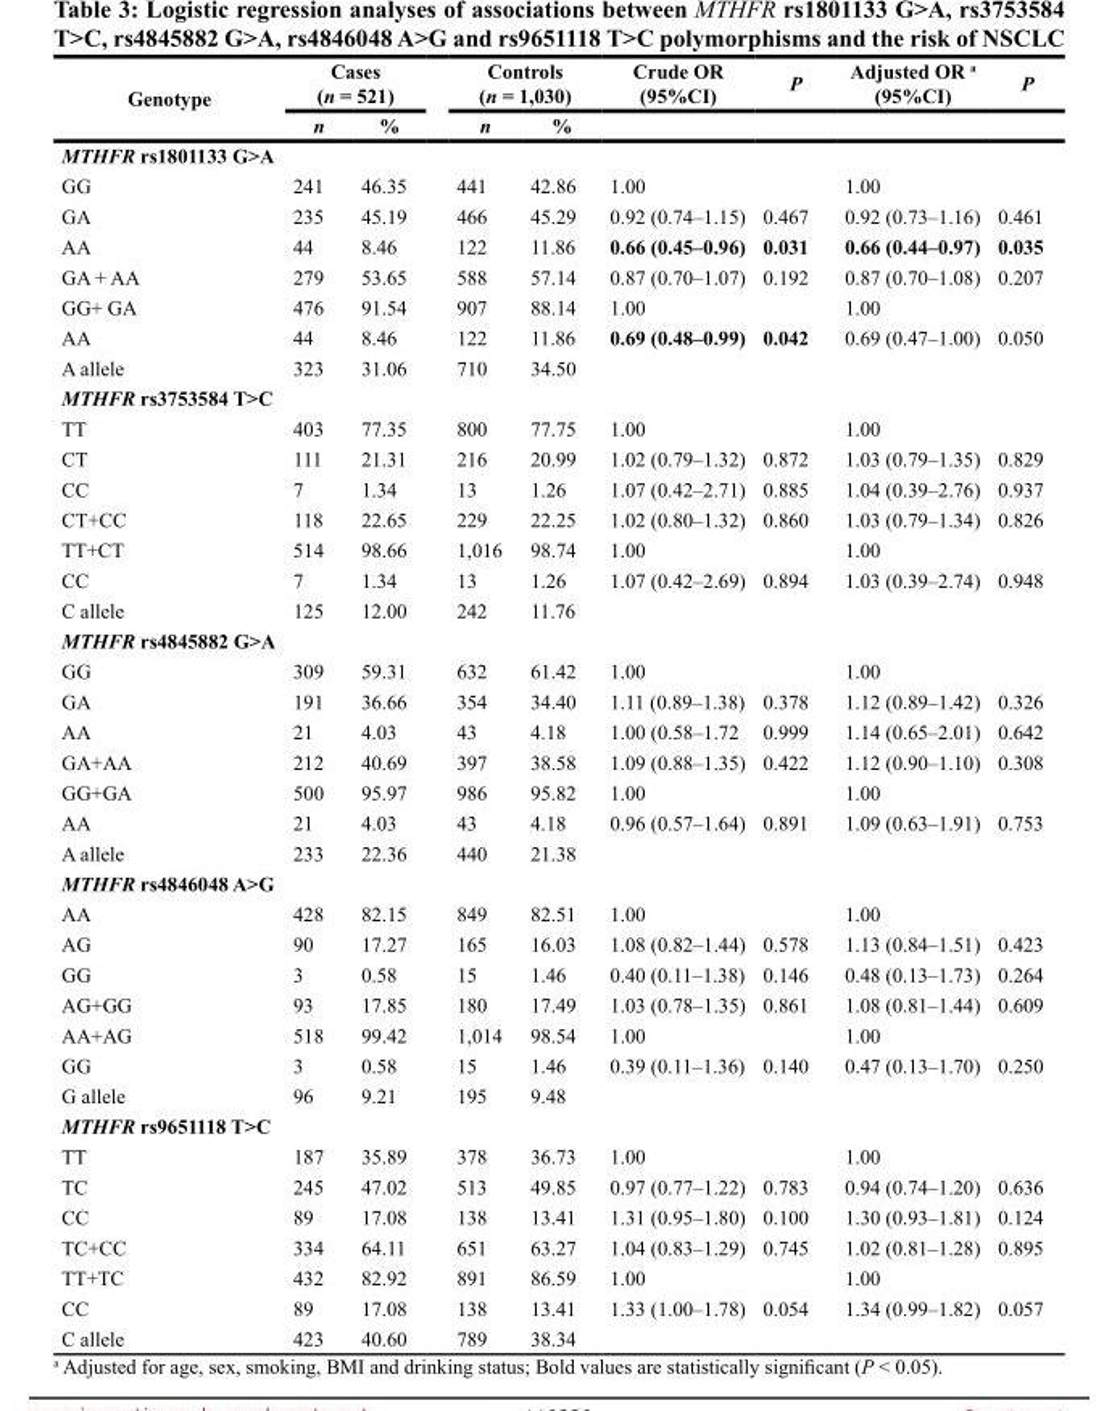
<table><thead><tr><td rowspan="2">Genotype</td><td colspan="2">Cases (n = 521)</td><td colspan="2">Controls (n = 1,030)</td><td rowspan="2">Crude OR (95%CI)</td><td rowspan="2">P</td><td rowspan="2">Adjusted OR <sup>a</sup> (95%CI)</td><td rowspan="2">P</td></tr><tr><td>n</td><td>%</td><td>n</td><td>%</td></tr></thead><tbody><tr><td colspan="9">MTHFR rs1801133 G&gt;A</td></tr><tr><td>GG</td><td>241</td><td>46.35</td><td>441</td><td>42.86</td><td>1.00</td><td></td><td>1.00</td><td></td></tr><tr><td>GA</td><td>235</td><td>45.19</td><td>466</td><td>45.29</td><td>0.92 (0.74–1.15)</td><td>0.467</td><td>0.92 (0.73–1.16)</td><td>0.461</td></tr><tr><td>AA</td><td>44</td><td>8.46</td><td>122</td><td>11.86</td><td>0.66 (0.45–0.96)</td><td>0.031</td><td>0.66 (0.44–0.97)</td><td>0.035</td></tr><tr><td>GA + AA</td><td>279</td><td>53.65</td><td>588</td><td>57.14</td><td>0.87 (0.70–1.07)</td><td>0.192</td><td>0.87 (0.70–1.08)</td><td>0.207</td></tr><tr><td>GG+ GA</td><td>476</td><td>91.54</td><td>907</td><td>88.14</td><td>1.00</td><td></td><td>1.00</td><td></td></tr><tr><td>AA</td><td>44</td><td>8.46</td><td>122</td><td>11.86</td><td>0.69 (0.48–0.99)</td><td>0.042</td><td>0.69 (0.47–1.00)</td><td>0.050</td></tr><tr><td>A allele</td><td>323</td><td>31.06</td><td>710</td><td>34.50</td><td></td><td></td><td></td><td></td></tr><tr><td colspan="9">MTHFR rs3753584 T&gt;C</td></tr><tr><td>TT</td><td>403</td><td>77.35</td><td>800</td><td>77.75</td><td>1.00</td><td></td><td>1.00</td><td></td></tr><tr><td>CT</td><td>111</td><td>21.31</td><td>216</td><td>20.99</td><td>1.02 (0.79–1.32)</td><td>0.872</td><td>1.03 (0.79–1.35)</td><td>0.829</td></tr><tr><td>CC</td><td>7</td><td>1.34</td><td>13</td><td>1.26</td><td>1.07 (0.42–2.71)</td><td>0.885</td><td>1.04 (0.39–2.76)</td><td>0.937</td></tr><tr><td>CT+CC</td><td>118</td><td>22.65</td><td>229</td><td>22.25</td><td>1.02 (0.80–1.32)</td><td>0.860</td><td>1.03 (0.79–1.34)</td><td>0.826</td></tr><tr><td>TT+CT</td><td>514</td><td>98.66</td><td>1,016</td><td>98.74</td><td>1.00</td><td></td><td>1.00</td><td></td></tr><tr><td>CC</td><td>7</td><td>1.34</td><td>13</td><td>1.26</td><td>1.07 (0.42–2.69)</td><td>0.894</td><td>1.03 (0.39–2.74)</td><td>0.948</td></tr><tr><td>C allele</td><td>125</td><td>12.00</td><td>242</td><td>11.76</td><td></td><td></td><td></td><td></td></tr><tr><td colspan="9">MTHFR rs4845882 G&gt;A</td></tr><tr><td>GG</td><td>309</td><td>59.31</td><td>632</td><td>61.42</td><td>1.00</td><td></td><td>1.00</td><td></td></tr><tr><td>GA</td><td>191</td><td>36.66</td><td>354</td><td>34.40</td><td>1.11 (0.89–1.38)</td><td>0.378</td><td>1.12 (0.89–1.42)</td><td>0.326</td></tr><tr><td>AA</td><td>21</td><td>4.03</td><td>43</td><td>4.18</td><td>1.00 (0.58–1.72</td><td>0.999</td><td>1.14 (0.65–2.01)</td><td>0.642</td></tr><tr><td>GA+AA</td><td>212</td><td>40.69</td><td>397</td><td>38.58</td><td>1.09 (0.88–1.35)</td><td>0.422</td><td>1.12 (0.90–1.10)</td><td>0.308</td></tr><tr><td>GG+GA</td><td>500</td><td>95.97</td><td>986</td><td>95.82</td><td>1.00</td><td></td><td>1.00</td><td></td></tr><tr><td>AA</td><td>21</td><td>4.03</td><td>43</td><td>4.18</td><td>0.96 (0.57–1.64)</td><td>0.891</td><td>1.09 (0.63–1.91)</td><td>0.753</td></tr><tr><td>A allele</td><td>233</td><td>22.36</td><td>440</td><td>21.38</td><td></td><td></td><td></td><td></td></tr><tr><td colspan="9">MTHFR rs4846048 A&gt;G</td></tr><tr><td>AA</td><td>428</td><td>82.15</td><td>849</td><td>82.51</td><td>1.00</td><td></td><td>1.00</td><td></td></tr><tr><td>AG</td><td>90</td><td>17.27</td><td>165</td><td>16.03</td><td>1.08 (0.82–1.44)</td><td>0.578</td><td>1.13 (0.84–1.51)</td><td>0.423</td></tr><tr><td>GG</td><td>3</td><td>0.58</td><td>15</td><td>1.46</td><td>0.40 (0.11–1.38)</td><td>0.146</td><td>0.48 (0.13–1.73)</td><td>0.264</td></tr><tr><td>AG+GG</td><td>93</td><td>17.85</td><td>180</td><td>17.49</td><td>1.03 (0.78–1.35)</td><td>0.861</td><td>1.08 (0.81–1.44)</td><td>0.609</td></tr><tr><td>AA+AG</td><td>518</td><td>99.42</td><td>1,014</td><td>98.54</td><td>1.00</td><td></td><td>1.00</td><td></td></tr><tr><td>GG</td><td>3</td><td>0.58</td><td>15</td><td>1.46</td><td>0.39 (0.11–1.36)</td><td>0.140</td><td>0.47 (0.13–1.70)</td><td>0.250</td></tr><tr><td>G allele</td><td>96</td><td>9.21</td><td>195</td><td>9.48</td><td></td><td></td><td></td><td></td></tr><tr><td colspan="9">MTHFR rs9651118 T&gt;C</td></tr><tr><td>TT</td><td>187</td><td>35.89</td><td>378</td><td>36.73</td><td>1.00</td><td></td><td>1.00</td><td></td></tr><tr><td>TC</td><td>245</td><td>47.02</td><td>513</td><td>49.85</td><td>0.97 (0.77–1.22)</td><td>0.783</td><td>0.94 (0.74–1.20)</td><td>0.636</td></tr><tr><td>CC</td><td>89</td><td>17.08</td><td>138</td><td>13.41</td><td>1.31 (0.95–1.80)</td><td>0.100</td><td>1.30 (0.93–1.81)</td><td>0.124</td></tr><tr><td>TC+CC</td><td>334</td><td>64.11</td><td>651</td><td>63.27</td><td>1.04 (0.83–1.29)</td><td>0.745</td><td>1.02 (0.81–1.28)</td><td>0.895</td></tr><tr><td>TT+TC</td><td>432</td><td>82.92</td><td>891</td><td>86.59</td><td>1.00</td><td></td><td>1.00</td><td></td></tr><tr><td>CC</td><td>89</td><td>17.08</td><td>138</td><td>13.41</td><td>1.33 (1.00–1.78)</td><td>0.054</td><td>1.34 (0.99–1.82)</td><td>0.057</td></tr><tr><td>C allele</td><td>423</td><td>40.60</td><td>789</td><td>38.34</td><td></td><td></td><td></td><td></td></tr></tbody></table>